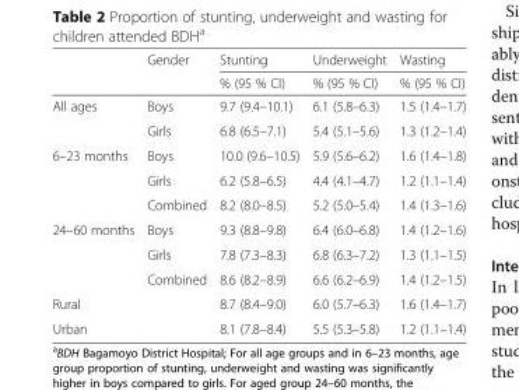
<table><thead><tr><td rowspan="2"></td><td rowspan="2">Gender</td><td rowspan="2">Stunting % (95 % CI)</td><td rowspan="2">Underweight % (95 % CI)</td><td rowspan="2">Wasting % (95 % CI)</td></tr><tr></tr></thead><tbody><tr><td rowspan="2">All ages</td><td>Boys</td><td>9.7 (9.4–10.1)</td><td>6.1 (5.8–6.3)</td><td>1.5 (1.4–1.7)</td></tr><tr><td>Girls</td><td>6.8 (6.5–7.1)</td><td>5.4 (5.1–5.6)</td><td>1.3 (1.2–1.4)</td></tr><tr><td rowspan="3">6–23 months</td><td>Boys</td><td>10.0 (9.6–10.5)</td><td>5.9 (5.6–6.2)</td><td>1.6 (1.4–1.8)</td></tr><tr><td>Girls</td><td>6.2 (5.8–6.5)</td><td>4.4 (4.1–4.7)</td><td>1.2 (1.1–1.4)</td></tr><tr><td>Combined</td><td>8.2 (8.0–8.5)</td><td>5.2 (5.0–5.4)</td><td>1.4 (1.3–1.6)</td></tr><tr><td rowspan="3">24–60 months</td><td>Boys</td><td>9.3 (8.8–9.8)</td><td>6.4 (6.0–6.8)</td><td>1.4 (1.2–1.6)</td></tr><tr><td>Girls</td><td>7.8 (7.3–8.3)</td><td>6.8 (6.3–7.2)</td><td>1.3 (1.1–1.5)</td></tr><tr><td>Combined</td><td>8.6 (8.2–8.9)</td><td>6.6 (6.2–6.9)</td><td>1.4 (1.2–1.5)</td></tr><tr><td>Rural</td><td></td><td>8.7 (8.4–9.0)</td><td>6.0 (5.7–6.3)</td><td>1.6 (1.4–1.7)</td></tr><tr><td>Urban</td><td></td><td>8.1 (7.8–8.4)</td><td>5.5 (5.3–5.8)</td><td>1.2 (1.1–1.4)</td></tr></tbody></table>